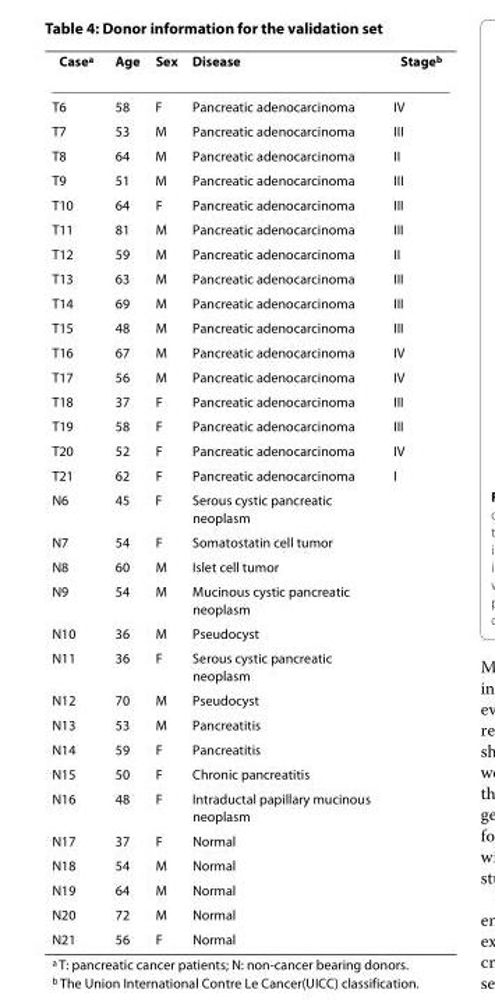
<table><thead><tr><td>Case<sup>a</sup></td><td>Age</td><td>Sex</td><td>Disease</td><td>Stage<sup>b</sup></td></tr></thead><tbody><tr><td>T6</td><td>58</td><td>F</td><td>Pancreatic adenocarcinoma</td><td>IV</td></tr><tr><td>T7</td><td>53</td><td>M</td><td>Pancreatic adenocarcinoma</td><td>III</td></tr><tr><td>T8</td><td>64</td><td>M</td><td>Pancreatic adenocarcinoma</td><td>II</td></tr><tr><td>T9</td><td>51</td><td>M</td><td>Pancreatic adenocarcinoma</td><td>III</td></tr><tr><td>T10</td><td>64</td><td>F</td><td>Pancreatic adenocarcinoma</td><td>III</td></tr><tr><td>T11</td><td>81</td><td>M</td><td>Pancreatic adenocarcinoma</td><td>III</td></tr><tr><td>T12</td><td>59</td><td>M</td><td>Pancreatic adenocarcinoma</td><td>II</td></tr><tr><td>T13</td><td>63</td><td>M</td><td>Pancreatic adenocarcinoma</td><td>III</td></tr><tr><td>T14</td><td>69</td><td>M</td><td>Pancreatic adenocarcinoma</td><td>III</td></tr><tr><td>T15</td><td>48</td><td>M</td><td>Pancreatic adenocarcinoma</td><td>III</td></tr><tr><td>T16</td><td>67</td><td>M</td><td>Pancreatic adenocarcinoma</td><td>IV</td></tr><tr><td>T17</td><td>56</td><td>M</td><td>Pancreatic adenocarcinoma</td><td>IV</td></tr><tr><td>T18</td><td>37</td><td>F</td><td>Pancreatic adenocarcinoma</td><td>III</td></tr><tr><td>T19</td><td>58</td><td>F</td><td>Pancreatic adenocarcinoma</td><td>III</td></tr><tr><td>T20</td><td>52</td><td>F</td><td>Pancreatic adenocarcinoma</td><td>IV</td></tr><tr><td>T21</td><td>62</td><td>F</td><td>Pancreatic adenocarcinoma</td><td>I</td></tr><tr><td>N6</td><td>45</td><td>F</td><td>Serous cystic pancreatic neoplasm</td><td></td></tr><tr><td>N7</td><td>54</td><td>F</td><td>Somatostatin cell tumor</td><td></td></tr><tr><td>N8</td><td>60</td><td>M</td><td>Islet cell tumor</td><td></td></tr><tr><td>N9</td><td>54</td><td>M</td><td>Mucinous cystic pancreatic neoplasm</td><td></td></tr><tr><td>N10</td><td>36</td><td>M</td><td>Pseudocyst</td><td></td></tr><tr><td>N11</td><td>36</td><td>F</td><td>Serous cystic pancreatic neoplasm</td><td></td></tr><tr><td>N12</td><td>70</td><td>M</td><td>Pseudocyst</td><td></td></tr><tr><td>N13</td><td>53</td><td>M</td><td>Pancreatitis</td><td></td></tr><tr><td>N14</td><td>59</td><td>F</td><td>Pancreatitis</td><td></td></tr><tr><td>N15</td><td>50</td><td>F</td><td>Chronic pancreatitis</td><td></td></tr><tr><td>N16</td><td>48</td><td>F</td><td>Intraductal papillary mucinous neoplasm</td><td></td></tr><tr><td>N17</td><td>37</td><td>F</td><td>Normal</td><td></td></tr><tr><td>N18</td><td>54</td><td>M</td><td>Normal</td><td></td></tr><tr><td>N19</td><td>64</td><td>M</td><td>Normal</td><td></td></tr><tr><td>N20</td><td>72</td><td>M</td><td>Normal</td><td></td></tr><tr><td>N21</td><td>56</td><td>F</td><td>Normal</td><td></td></tr></tbody></table>